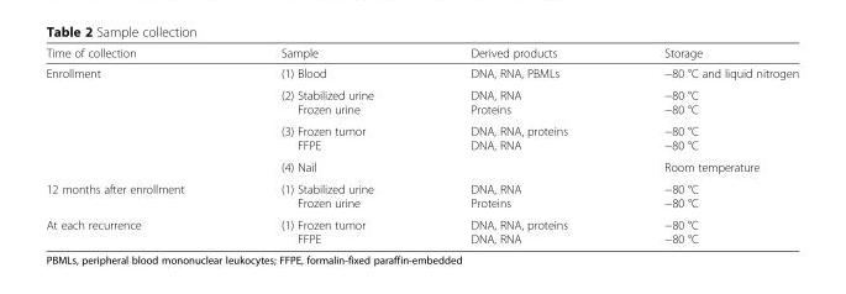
<table><thead><tr><td>Time of collection</td><td>Sample</td><td>Derived products</td><td>Storage</td></tr></thead><tbody><tr><td rowspan="4">Enrollment</td><td>(1) Blood</td><td>DNA, RNA, PBMLs</td><td>−80 °C and liquid nitrogen</td></tr><tr><td>(2) Stabilized urine Frozen urine</td><td>DNA, RNA Proteins</td><td>−80 °C −80 °C</td></tr><tr><td>(3) Frozen tumor FFPE</td><td>DNA, RNA, proteins DNA, RNA</td><td>−80 °C −80 °C</td></tr><tr><td>(4) Nail</td><td></td><td>Room temperature</td></tr><tr><td>12 months after enrollment</td><td>(1) Stabilized urine Frozen urine</td><td>DNA, RNA Proteins</td><td>−80 °C −80 °C</td></tr><tr><td>At each recurrence</td><td>(1) Frozen tumor FFPE</td><td>DNA, RNA, proteins DNA, RNA</td><td>−80 °C −80 °C</td></tr></tbody></table>